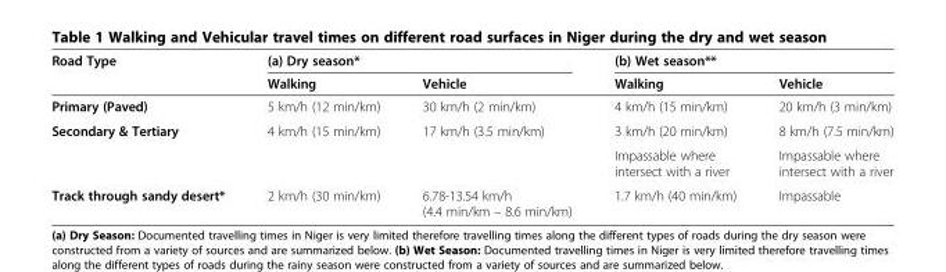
<table><thead><tr><td rowspan="2">Road Type</td><td colspan="2">(a) Dry season*</td><td colspan="2">(b) Wet season**</td></tr><tr><td>Walking</td><td>Vehicle</td><td>Walking</td><td>Vehicle</td></tr></thead><tbody><tr><td>Primary (Paved)</td><td>5 km/h (12 min/km)</td><td>30 km/h (2 min/km)</td><td>4 km/h (15 min/km)</td><td>20 km/h (3 min/km)</td></tr><tr><td rowspan="2">Secondary &amp; Tertiary</td><td>4 km/h (15 min/km)</td><td>17 km/h (3.5 min/km)</td><td>3 km/h (20 min/km)</td><td>8 km/h (7.5 min/km)</td></tr><tr><td></td><td></td><td>Impassable where intersect with a river</td><td>Impassable where intersect with a river</td></tr><tr><td>Track through sandy desert*</td><td>2 km/h (30 min/km)</td><td>6.78-13.54 km/h (4.4 min/km – 8.6 min/km)</td><td>1.7 km/h (40 min/km)</td><td>Impassable</td></tr></tbody></table>